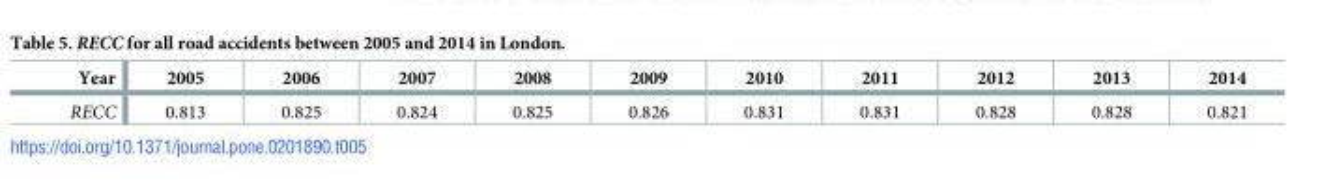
<table><thead><tr><td>Year</td><td>2005</td><td>2006</td><td>2007</td><td>2008</td><td>2009</td><td>2010</td><td>2011</td><td>2012</td><td>2013</td><td>2014</td></tr></thead><tbody><tr><td>RECC</td><td>0.813</td><td>0.825</td><td>0.824</td><td>0.825</td><td>0.826</td><td>0.831</td><td>0.831</td><td>0.828</td><td>0.828</td><td>0.821</td></tr></tbody></table>